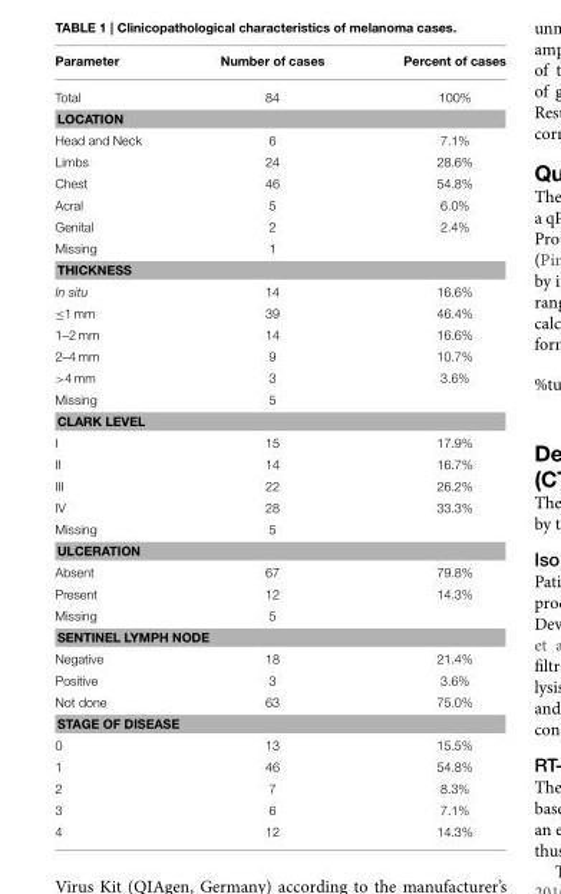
<table><thead><tr><td>Parameter</td><td>Number of cases</td><td>Percent of cases</td></tr></thead><tbody><tr><td>Total</td><td>84</td><td>100%</td></tr><tr><td colspan="3">LOCATION</td></tr><tr><td>Head and Neck</td><td>6</td><td>7.1%</td></tr><tr><td>Limbs</td><td>24</td><td>28.6%</td></tr><tr><td>Chest</td><td>46</td><td>54.8%</td></tr><tr><td>Acral</td><td>5</td><td>6.0%</td></tr><tr><td>Genital</td><td>2</td><td>2.4%</td></tr><tr><td>Missing</td><td>1</td><td></td></tr><tr><td colspan="3">THICKNESS</td></tr><tr><td>In situ</td><td>14</td><td>16.6%</td></tr><tr><td>≤1 mm</td><td>39</td><td>46.4%</td></tr><tr><td>1–2 mm</td><td>14</td><td>16.6%</td></tr><tr><td>2–4 mm</td><td>9</td><td>10.7%</td></tr><tr><td>&gt;4 mm</td><td>3</td><td>3.6%</td></tr><tr><td>Missing</td><td>5</td><td></td></tr><tr><td colspan="3">CLARK LEVEL</td></tr><tr><td>I</td><td>15</td><td>17.9%</td></tr><tr><td>II</td><td>14</td><td>16.7%</td></tr><tr><td>III</td><td>22</td><td>26.2%</td></tr><tr><td>IV</td><td>28</td><td>33.3%</td></tr><tr><td>Missing</td><td>5</td><td></td></tr><tr><td colspan="3">ULCERATION</td></tr><tr><td>Absent</td><td>67</td><td>79.8%</td></tr><tr><td>Present</td><td>12</td><td>14.3%</td></tr><tr><td>Missing</td><td>5</td><td></td></tr><tr><td colspan="3">SENTINEL LYMPH NODE</td></tr><tr><td>Negative</td><td>18</td><td>21.4%</td></tr><tr><td>Positive</td><td>3</td><td>3.6%</td></tr><tr><td>Not done</td><td>63</td><td>75.0%</td></tr><tr><td colspan="3">STAGE OF DISEASE</td></tr><tr><td>0</td><td>13</td><td>15.5%</td></tr><tr><td>1</td><td>46</td><td>54.8%</td></tr><tr><td>2</td><td>7</td><td>8.3%</td></tr><tr><td>3</td><td>6</td><td>7.1%</td></tr><tr><td>4</td><td>12</td><td>14.3%</td></tr></tbody></table>